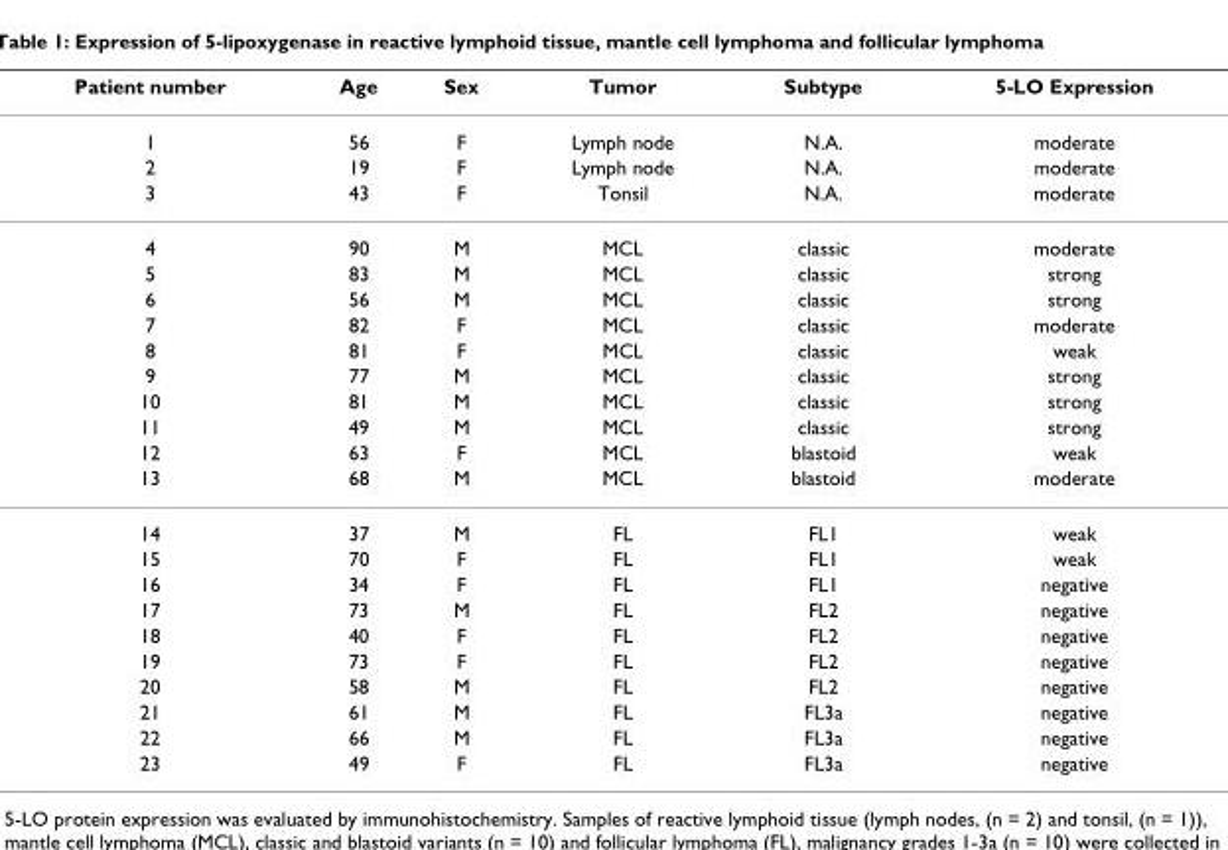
<table><thead><tr><td>Patient number</td><td>Age</td><td>Sex</td><td>Tumor</td><td>Subtype</td><td>5-LO Expression</td></tr></thead><tbody><tr><td>1</td><td>56</td><td>F</td><td>Lymph node</td><td>N.A.</td><td>moderate</td></tr><tr><td>2</td><td>19</td><td>F</td><td>Lymph node</td><td>N.A.</td><td>moderate</td></tr><tr><td>3</td><td>43</td><td>F</td><td>Tonsil</td><td>N.A.</td><td>moderate</td></tr><tr><td>4</td><td>90</td><td>M</td><td>MCL</td><td>classic</td><td>moderate</td></tr><tr><td>5</td><td>83</td><td>M</td><td>MCL</td><td>classic</td><td>strong</td></tr><tr><td>6</td><td>56</td><td>M</td><td>MCL</td><td>classic</td><td>strong</td></tr><tr><td>7</td><td>82</td><td>F</td><td>MCL</td><td>classic</td><td>moderate</td></tr><tr><td>8</td><td>81</td><td>F</td><td>MCL</td><td>classic</td><td>weak</td></tr><tr><td>9</td><td>77</td><td>M</td><td>MCL</td><td>classic</td><td>strong</td></tr><tr><td>10</td><td>81</td><td>M</td><td>MCL</td><td>classic</td><td>strong</td></tr><tr><td>11</td><td>49</td><td>M</td><td>MCL</td><td>classic</td><td>strong</td></tr><tr><td>12</td><td>63</td><td>F</td><td>MCL</td><td>blastoid</td><td>weak</td></tr><tr><td>13</td><td>68</td><td>M</td><td>MCL</td><td>blastoid</td><td>moderate</td></tr><tr><td>14</td><td>37</td><td>M</td><td>FL</td><td>FL1</td><td>weak</td></tr><tr><td>15</td><td>70</td><td>F</td><td>FL</td><td>FL1</td><td>weak</td></tr><tr><td>16</td><td>34</td><td>F</td><td>FL</td><td>FL1</td><td>negative</td></tr><tr><td>17</td><td>73</td><td>M</td><td>FL</td><td>FL2</td><td>negative</td></tr><tr><td>18</td><td>40</td><td>F</td><td>FL</td><td>FL2</td><td>negative</td></tr><tr><td>19</td><td>73</td><td>F</td><td>FL</td><td>FL2</td><td>negative</td></tr><tr><td>20</td><td>58</td><td>M</td><td>FL</td><td>FL2</td><td>negative</td></tr><tr><td>21</td><td>61</td><td>M</td><td>FL</td><td>FL3a</td><td>negative</td></tr><tr><td>22</td><td>66</td><td>M</td><td>FL</td><td>FL3a</td><td>negative</td></tr><tr><td>23</td><td>49</td><td>F</td><td>FL</td><td>FL3a</td><td>negative</td></tr></tbody></table>